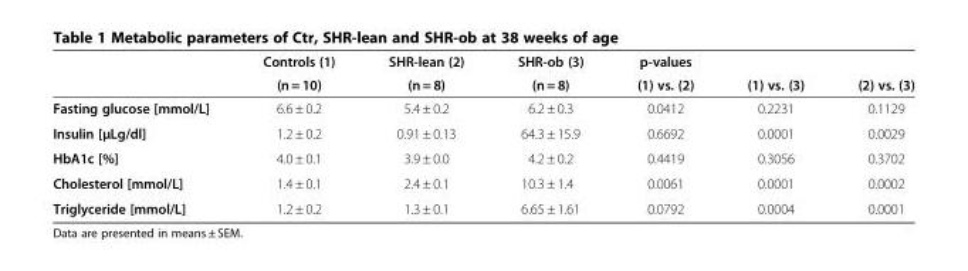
<table><thead><tr><td rowspan="2"></td><td rowspan="2">Controls (1) (n = 10)</td><td rowspan="2">SHR-lean (2) (n = 8)</td><td rowspan="2">SHR-ob (3) (n = 8)</td><td rowspan="2">p-values (1) vs. (2)</td><td rowspan="2">(1) vs. (3)</td><td rowspan="2">(2) vs. (3)</td></tr><tr></tr></thead><tbody><tr><td>Fasting glucose [mmol/L]</td><td>6.6 ± 0.2</td><td>5.4 ± 0.2</td><td>6.2 ± 0.3</td><td>0.0412</td><td>0.2231</td><td>0.1129</td></tr><tr><td>Insulin [μLg/dl]</td><td>1.2 ± 0.2</td><td>0.91 ± 0.13</td><td>64.3 ± 15.9</td><td>0.6692</td><td>0.0001</td><td>0.0029</td></tr><tr><td>HbA1c [%]</td><td>4.0 ± 0.1</td><td>3.9 ± 0.0</td><td>4.2 ± 0.2</td><td>0.4419</td><td>0.3056</td><td>0.3702</td></tr><tr><td>Cholesterol [mmol/L]</td><td>1.4 ± 0.1</td><td>2.4 ± 0.1</td><td>10.3 ± 1.4</td><td>0.0061</td><td>0.0001</td><td>0.0002</td></tr><tr><td>Triglyceride [mmol/L]</td><td>1.2 ± 0.2</td><td>1.3 ± 0.1</td><td>6.65 ± 1.61</td><td>0.0792</td><td>0.0004</td><td>0.0001</td></tr></tbody></table>